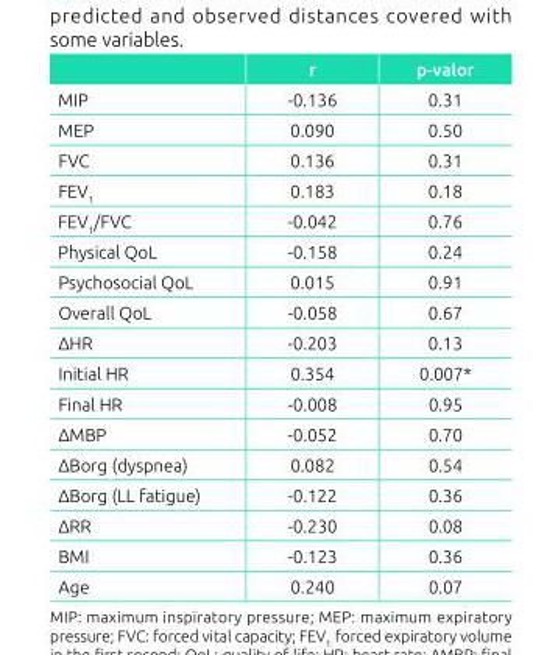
<table><thead><tr><td></td><td>r</td><td>p-valor</td></tr></thead><tbody><tr><td>MIP</td><td>-0.136</td><td>0.31</td></tr><tr><td>MEP</td><td>0.090</td><td>0.50</td></tr><tr><td>FVC</td><td>0.136</td><td>0.31</td></tr><tr><td>FEV<sub>1</sub></td><td>0.183</td><td>0.18</td></tr><tr><td>FEV<sub>1</sub>/FVC</td><td>-0.042</td><td>0.76</td></tr><tr><td>Physical QoL</td><td>-0.158</td><td>0.24</td></tr><tr><td>Psychosocial QoL</td><td>0.015</td><td>0.91</td></tr><tr><td>Overall QoL</td><td>-0.058</td><td>0.67</td></tr><tr><td>∆HR</td><td>-0.203</td><td>0.13</td></tr><tr><td>Initial HR</td><td>0.354</td><td>0.007*</td></tr><tr><td>Final HR</td><td>-0.008</td><td>0.95</td></tr><tr><td>∆MBP</td><td>-0.052</td><td>0.70</td></tr><tr><td>∆Borg (dyspnea)</td><td>0.082</td><td>0.54</td></tr><tr><td>∆Borg (LL fatigue)</td><td>-0.122</td><td>0.36</td></tr><tr><td>∆RR</td><td>-0.230</td><td>0.08</td></tr><tr><td>BMI</td><td>-0.123</td><td>0.36</td></tr><tr><td>Age</td><td>0.240</td><td>0.07</td></tr></tbody></table>